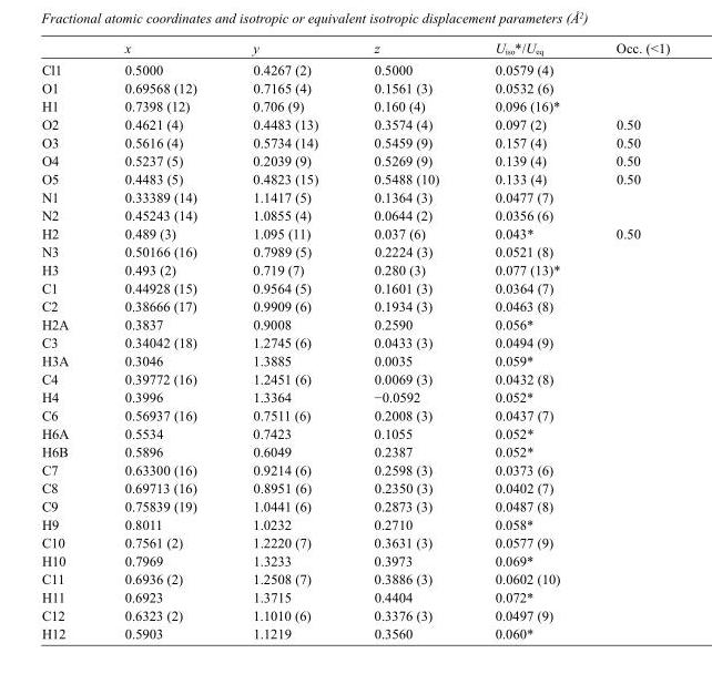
<table><thead><tr><td></td><td>x</td><td>y</td><td>z</td><td>U<sub>iso</sub>*/U<sub>eq</sub></td><td>Occ. (&lt;1)</td></tr></thead><tbody><tr><td>Cl1</td><td>0.5000</td><td>0.4267 (2)</td><td>0.5000</td><td>0.0579 (4)</td><td></td></tr><tr><td>O1</td><td>0.69568 (12)</td><td>0.7165 (4)</td><td>0.1561 (3)</td><td>0.0532 (6)</td><td></td></tr><tr><td>H1</td><td>0.7398 (12)</td><td>0.706 (9)</td><td>0.160 (4)</td><td>0.096 (16)*</td><td></td></tr><tr><td>O2</td><td>0.4621 (4)</td><td>0.4483 (13)</td><td>0.3574 (4)</td><td>0.097 (2)</td><td>0.50</td></tr><tr><td>O3</td><td>0.5616 (4)</td><td>0.5734 (14)</td><td>0.5459 (9)</td><td>0.157 (4)</td><td>0.50</td></tr><tr><td>O4</td><td>0.5237 (5)</td><td>0.2039 (9)</td><td>0.5269 (9)</td><td>0.139 (4)</td><td>0.50</td></tr><tr><td>O5</td><td>0.4483 (5)</td><td>0.4823 (15)</td><td>0.5488 (10)</td><td>0.133 (4)</td><td>0.50</td></tr><tr><td>N1</td><td>0.33389 (14)</td><td>1.1417 (5)</td><td>0.1364 (3)</td><td>0.0477 (7)</td><td></td></tr><tr><td>N2</td><td>0.45243 (14)</td><td>1.0855 (4)</td><td>0.0644 (2)</td><td>0.0356 (6)</td><td></td></tr><tr><td>H2</td><td>0.489 (3)</td><td>1.095 (11)</td><td>0.037 (6)</td><td>0.043*</td><td>0.50</td></tr><tr><td>N3</td><td>0.50166 (16)</td><td>0.7989 (5)</td><td>0.2224 (3)</td><td>0.0521 (8)</td><td></td></tr><tr><td>H3</td><td>0.493 (2)</td><td>0.719 (7)</td><td>0.280 (3)</td><td>0.077 (13)*</td><td></td></tr><tr><td>C1</td><td>0.44928 (15)</td><td>0.9564 (5)</td><td>0.1601 (3)</td><td>0.0364 (7)</td><td></td></tr><tr><td>C2</td><td>0.38666 (17)</td><td>0.9909 (6)</td><td>0.1934 (3)</td><td>0.0463 (8)</td><td></td></tr><tr><td>H2A</td><td>0.3837</td><td>0.9008</td><td>0.2590</td><td>0.056*</td><td></td></tr><tr><td>C3</td><td>0.34042 (18)</td><td>1.2745 (6)</td><td>0.0433 (3)</td><td>0.0494 (9)</td><td></td></tr><tr><td>H3A</td><td>0.3046</td><td>1.3885</td><td>0.0035</td><td>0.059*</td><td></td></tr><tr><td>C4</td><td>0.39772 (16)</td><td>1.2451 (6)</td><td>0.0069 (3)</td><td>0.0432 (8)</td><td></td></tr><tr><td>H4</td><td>0.3996</td><td>1.3364</td><td>−0.0592</td><td>0.052*</td><td></td></tr><tr><td>C6</td><td>0.56937 (16)</td><td>0.7511 (6)</td><td>0.2008 (3)</td><td>0.0437 (7)</td><td></td></tr><tr><td>H6A</td><td>0.5534</td><td>0.7423</td><td>0.1055</td><td>0.052*</td><td></td></tr><tr><td>H6B</td><td>0.5896</td><td>0.6049</td><td>0.2387</td><td>0.052*</td><td></td></tr><tr><td>C7</td><td>0.63300 (16)</td><td>0.9214 (6)</td><td>0.2598 (3)</td><td>0.0373 (6)</td><td></td></tr><tr><td>C8</td><td>0.69713 (16)</td><td>0.8951 (6)</td><td>0.2350 (3)</td><td>0.0402 (7)</td><td></td></tr><tr><td>C9</td><td>0.75839 (19)</td><td>1.0441 (6)</td><td>0.2873 (3)</td><td>0.0487 (8)</td><td></td></tr><tr><td>H9</td><td>0.8011</td><td>1.0232</td><td>0.2710</td><td>0.058*</td><td></td></tr><tr><td>C10</td><td>0.7561 (2)</td><td>1.2220 (7)</td><td>0.3631 (3)</td><td>0.0577 (9)</td><td></td></tr><tr><td>H10</td><td>0.7969</td><td>1.3233</td><td>0.3973</td><td>0.069*</td><td></td></tr><tr><td>C11</td><td>0.6936 (2)</td><td>1.2508 (7)</td><td>0.3886 (3)</td><td>0.0602 (10)</td><td></td></tr><tr><td>H11</td><td>0.6923</td><td>1.3715</td><td>0.4404</td><td>0.072*</td><td></td></tr><tr><td>C12</td><td>0.6323 (2)</td><td>1.1010 (6)</td><td>0.3376 (3)</td><td>0.0497 (9)</td><td></td></tr><tr><td>H12</td><td>0.5903</td><td>1.1219</td><td>0.3560</td><td>0.060*</td><td></td></tr></tbody></table>